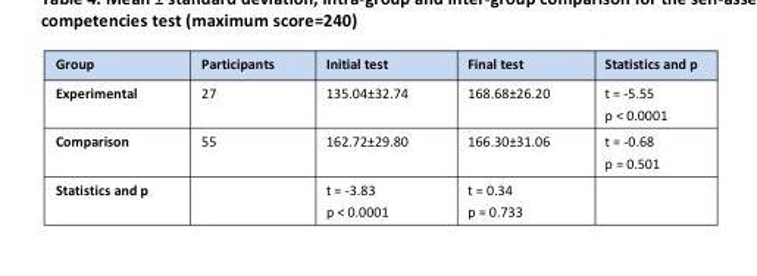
<table><thead><tr><td>Group</td><td>Participants</td><td>Initial test</td><td>Final test</td><td>Statistics and p</td></tr></thead><tbody><tr><td>Experimental</td><td>27</td><td>135.04±32.74</td><td>168.68±26.20</td><td>t = -5.55 p &lt; 0.0001</td></tr><tr><td>Comparison</td><td>55</td><td>162.72±29.80</td><td>166.30±31.06</td><td>t = -0.68 p = 0.501</td></tr><tr><td>Statistics and p</td><td></td><td>t = -3.83 p &lt; 0.0001</td><td>t = 0.34 p = 0.733</td><td></td></tr></tbody></table>